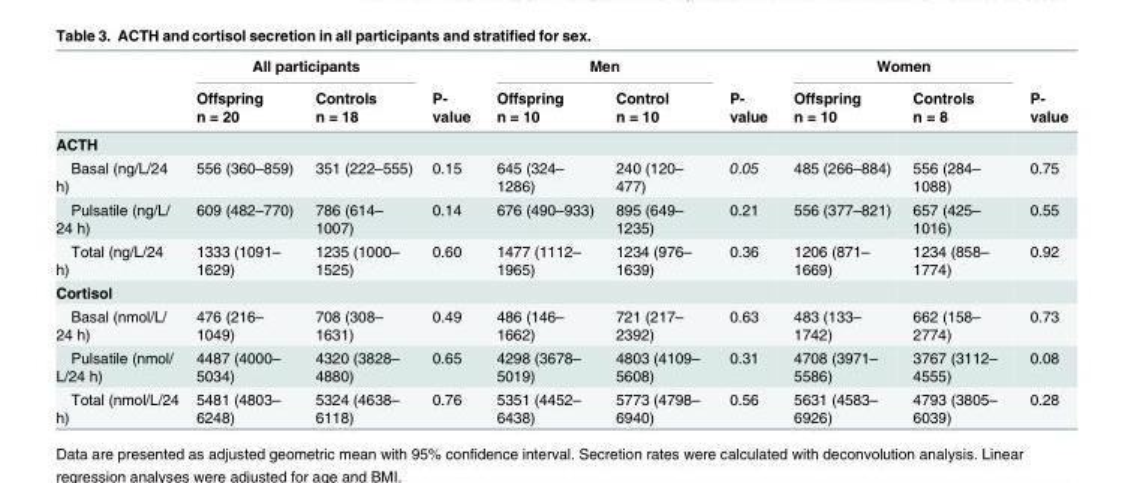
<table><thead><tr><td rowspan="2"></td><td colspan="2">All participants</td><td rowspan="2">P- value</td><td colspan="2">Men</td><td rowspan="2">P- value</td><td colspan="2">Women</td><td rowspan="2">P- value</td></tr><tr><td>Offspring n = 20</td><td>Controls n = 18</td><td>Offspring n = 10</td><td>Control n = 10</td><td>Offspring n = 10</td><td>Controls n = 8</td></tr></thead><tbody><tr><td colspan="10">ACTH</td></tr><tr><td>Basal (ng/L/24 h)</td><td>556 (360–859)</td><td>351 (222–555)</td><td>0.15</td><td>645 (324– 1286)</td><td>240 (120– 477)</td><td>0.05</td><td>485 (266–884)</td><td>556 (284– 1088)</td><td>0.75</td></tr><tr><td>Pulsatile (ng/L/ 24 h)</td><td>609 (482–770)</td><td>786 (614– 1007)</td><td>0.14</td><td>676 (490–933)</td><td>895 (649– 1235)</td><td>0.21</td><td>556 (377–821)</td><td>657 (425– 1016)</td><td>0.55</td></tr><tr><td>Total (ng/L/24 h)</td><td>1333 (1091– 1629)</td><td>1235 (1000– 1525)</td><td>0.60</td><td>1477 (1112– 1965)</td><td>1234 (976– 1639)</td><td>0.36</td><td>1206 (871– 1669)</td><td>1234 (858– 1774)</td><td>0.92</td></tr><tr><td colspan="10">Cortisol</td></tr><tr><td>Basal (nmol/L/ 24 h)</td><td>476 (216– 1049)</td><td>708 (308– 1631)</td><td>0.49</td><td>486 (146– 1662)</td><td>721 (217– 2392)</td><td>0.63</td><td>483 (133– 1742)</td><td>662 (158– 2774)</td><td>0.73</td></tr><tr><td>Pulsatile (nmol/ L/24 h)</td><td>4487 (4000– 5034)</td><td>4320 (3828– 4880)</td><td>0.65</td><td>4298 (3678– 5019)</td><td>4803 (4109– 5608)</td><td>0.31</td><td>4708 (3971– 5586)</td><td>3767 (3112– 4555)</td><td>0.08</td></tr><tr><td>Total (nmol/L/24 h)</td><td>5481 (4803– 6248)</td><td>5324 (4638– 6118)</td><td>0.76</td><td>5351 (4452– 6438)</td><td>5773 (4798– 6940)</td><td>0.56</td><td>5631 (4583– 6926)</td><td>4793 (3805– 6039)</td><td>0.28</td></tr></tbody></table>